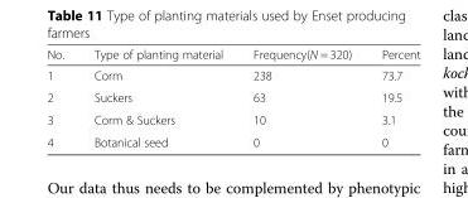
<table><thead><tr><td>No.</td><td>Type of planting material</td><td>Frequency(N = 320)</td><td>Percent</td></tr></thead><tbody><tr><td>1</td><td>Corm</td><td>238</td><td>73.7</td></tr><tr><td>2</td><td>Suckers</td><td>63</td><td>19.5</td></tr><tr><td>3</td><td>Corm &amp; Suckers</td><td>10</td><td>3.1</td></tr><tr><td>4</td><td>Botanical seed</td><td>0</td><td>0</td></tr></tbody></table>